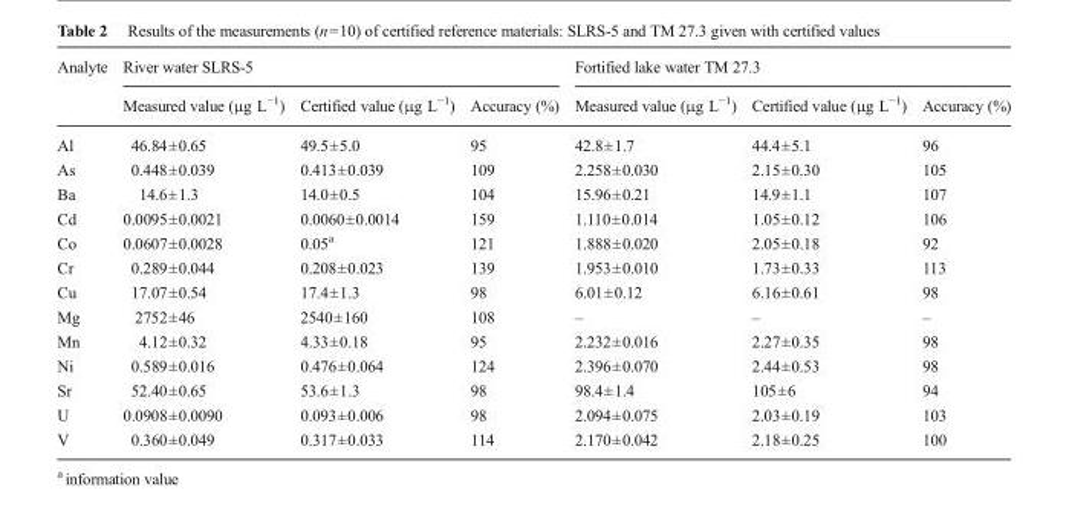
<table><thead><tr><td rowspan="2">Analyte</td><td colspan="3">River water SLRS-5</td><td colspan="3">Fortified lake water TM 27.3</td></tr><tr><td>Measured value (μg L<sup>−1</sup>)</td><td>Certified value (μg L<sup>−1</sup>)</td><td>Accuracy (%)</td><td>Measured value (μg L<sup>−1</sup>)</td><td>Certified value (μg L<sup>−1</sup>)</td><td>Accuracy (%)</td></tr></thead><tbody><tr><td>Al</td><td>46.84±0.65</td><td>49.5±5.0</td><td>95</td><td>42.8±1.7</td><td>44.4±5.1</td><td>96</td></tr><tr><td>As</td><td>0.448±0.039</td><td>0.413±0.039</td><td>109</td><td>2.258±0.030</td><td>2.15±0.30</td><td>105</td></tr><tr><td>Ba</td><td>14.6±1.3</td><td>14.0±0.5</td><td>104</td><td>15.96±0.21</td><td>14.9±1.1</td><td>107</td></tr><tr><td>Cd</td><td>0.0095±0.0021</td><td>0.0060±0.0014</td><td>159</td><td>1.110±0.014</td><td>1.05±0.12</td><td>106</td></tr><tr><td>Co</td><td>0.0607±0.0028</td><td>0.05<sup>a</sup></td><td>121</td><td>1.888±0.020</td><td>2.05±0.18</td><td>92</td></tr><tr><td>Cr</td><td>0.289±0.044</td><td>0.208±0.023</td><td>139</td><td>1.953±0.010</td><td>1.73±0.33</td><td>113</td></tr><tr><td>Cu</td><td>17.07±0.54</td><td>17.4±1.3</td><td>98</td><td>6.01±0.12</td><td>6.16±0.61</td><td>98</td></tr><tr><td>Mg</td><td>2752±46</td><td>2540±160</td><td>108</td><td>–</td><td>–</td><td>–</td></tr><tr><td>Mn</td><td>4.12±0.32</td><td>4.33±0.18</td><td>95</td><td>2.232±0.016</td><td>2.27±0.35</td><td>98</td></tr><tr><td>Ni</td><td>0.589±0.016</td><td>0.476±0.064</td><td>124</td><td>2.396±0.070</td><td>2.44±0.53</td><td>98</td></tr><tr><td>Sr</td><td>52.40±0.65</td><td>53.6±1.3</td><td>98</td><td>98.4±1.4</td><td>105±6</td><td>94</td></tr><tr><td>U</td><td>0.0908±0.0090</td><td>0.093±0.006</td><td>98</td><td>2.094±0.075</td><td>2.03±0.19</td><td>103</td></tr><tr><td>V</td><td>0.360±0.049</td><td>0.317±0.033</td><td>114</td><td>2.170±0.042</td><td>2.18±0.25</td><td>100</td></tr></tbody></table>